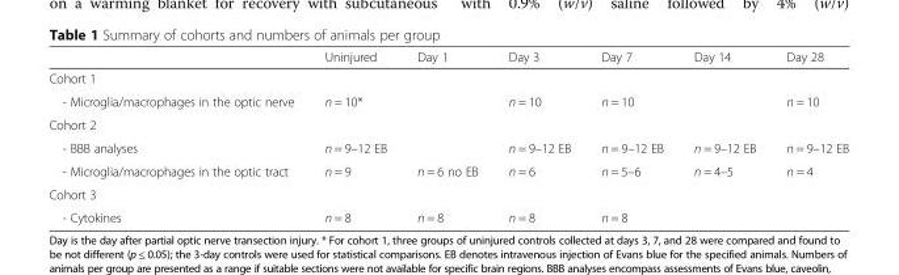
<table><thead><tr><td></td><td>Uninjured</td><td>Day 1</td><td>Day 3</td><td>Day 7</td><td>Day 14</td><td>Day 28</td></tr></thead><tbody><tr><td colspan="7">Cohort 1</td></tr><tr><td>- Microglia/macrophages in the optic nerve</td><td>n = 10*</td><td></td><td>n = 10</td><td>n = 10</td><td></td><td>n = 10</td></tr><tr><td colspan="7">Cohort 2</td></tr><tr><td>- BBB analyses</td><td>n = 9–12 EB</td><td></td><td>n = 9–12 EB</td><td>n = 9–12 EB</td><td>n = 9–12 EB</td><td>n = 9–12 EB</td></tr><tr><td>- Microglia/macrophages in the optic tract</td><td>n = 9</td><td>n = 6 no EB</td><td>n = 6</td><td>n = 5–6</td><td>n = 4–5</td><td>n = 4</td></tr><tr><td colspan="7">Cohort 3</td></tr><tr><td>- Cytokines</td><td>n = 8</td><td>n = 8</td><td>n = 8</td><td>n = 8</td><td></td><td></td></tr></tbody></table>